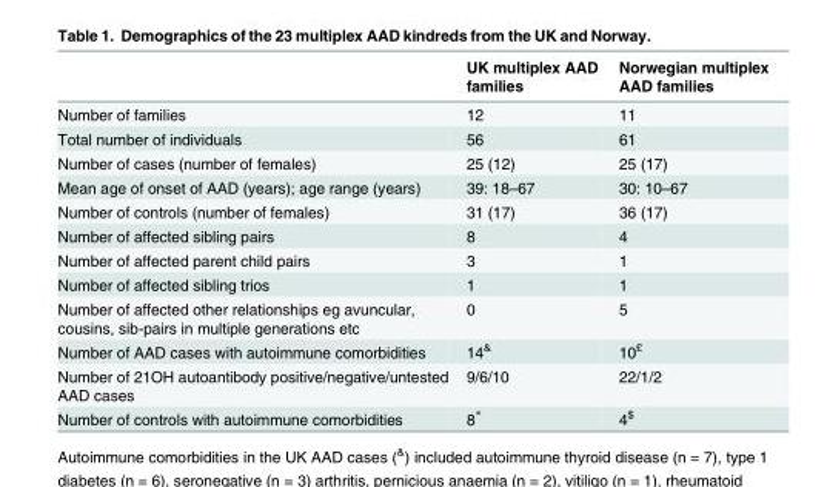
<table><thead><tr><td></td><td>UK multiplex AAD families</td><td>Norwegian multiplex AAD families</td></tr></thead><tbody><tr><td>Number of families</td><td>12</td><td>11</td></tr><tr><td>Total number of individuals</td><td>56</td><td>61</td></tr><tr><td>Number of cases (number of females)</td><td>25 (12)</td><td>25 (17)</td></tr><tr><td>Mean age of onset of AAD (years); age range (years)</td><td>39: 18–67</td><td>30: 10–67</td></tr><tr><td>Number of controls (number of females)</td><td>31 (17)</td><td>36 (17)</td></tr><tr><td>Number of affected sibling pairs</td><td>8</td><td>4</td></tr><tr><td>Number of affected parent child pairs</td><td>3</td><td>1</td></tr><tr><td>Number of affected sibling trios</td><td>1</td><td>1</td></tr><tr><td>Number of affected other relationships eg avuncular, cousins, sib-pairs in multiple generations etc</td><td>0</td><td>5</td></tr><tr><td>Number of AAD cases with autoimmune comorbidities</td><td>14<sup>&amp;</sup></td><td>10<sup>£</sup></td></tr><tr><td>Number of 21OH autoantibody positive/negative/untested AAD cases</td><td>9/6/10</td><td>22/1/2</td></tr><tr><td>Number of controls with autoimmune comorbidities</td><td>8*</td><td>4<sup>$</sup></td></tr></tbody></table>